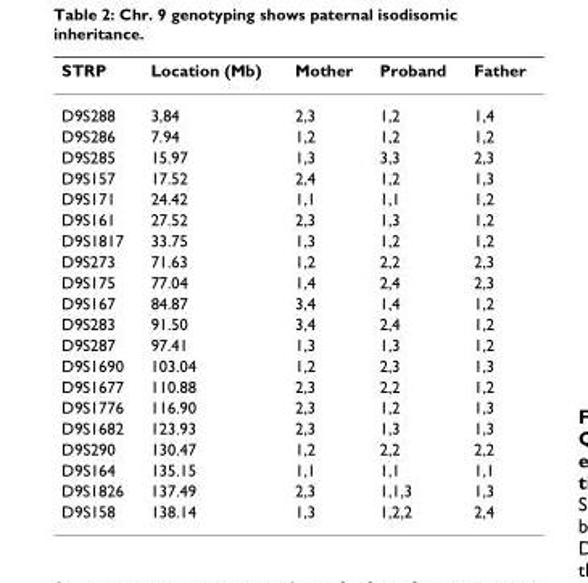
<table><thead><tr><td>STRP</td><td>Location (Mb)</td><td>Mother</td><td>Proband</td><td>Father</td></tr></thead><tbody><tr><td>D9S288</td><td>3,84</td><td>2,3</td><td>1,2</td><td>1,4</td></tr><tr><td>D9S286</td><td>7.94</td><td>1,2</td><td>1,2</td><td>1,2</td></tr><tr><td>D9S285</td><td>15.97</td><td>1,3</td><td>3,3</td><td>2,3</td></tr><tr><td>D9S157</td><td>17.52</td><td>2,4</td><td>1,2</td><td>1,3</td></tr><tr><td>D9S171</td><td>24.42</td><td>1,1</td><td>1,1</td><td>1,2</td></tr><tr><td>D9S161</td><td>27.52</td><td>2,3</td><td>1,3</td><td>1,2</td></tr><tr><td>D9S1817</td><td>33.75</td><td>1,3</td><td>1,2</td><td>1,2</td></tr><tr><td>D9S273</td><td>71.63</td><td>1,2</td><td>2,2</td><td>2,3</td></tr><tr><td>D9S175</td><td>77.04</td><td>1,4</td><td>2,4</td><td>2,3</td></tr><tr><td>D9S167</td><td>84.87</td><td>3,4</td><td>1,4</td><td>1,2</td></tr><tr><td>D9S283</td><td>91.50</td><td>3,4</td><td>2,4</td><td>1,2</td></tr><tr><td>D9S287</td><td>97.41</td><td>1,3</td><td>1,3</td><td>1,2</td></tr><tr><td>D9S1690</td><td>103.04</td><td>1,2</td><td>2,3</td><td>1,3</td></tr><tr><td>D9S1677</td><td>110.88</td><td>2,3</td><td>2,2</td><td>1,2</td></tr><tr><td>D9S1776</td><td>116.90</td><td>2,3</td><td>1,2</td><td>1,3</td></tr><tr><td>D9S1682</td><td>123.93</td><td>2,3</td><td>1,3</td><td>1,3</td></tr><tr><td>D9S290</td><td>130.47</td><td>1,2</td><td>2,2</td><td>2,2</td></tr><tr><td>D9S164</td><td>135.15</td><td>1,1</td><td>1,1</td><td>1,1</td></tr><tr><td>D9S1826</td><td>137.49</td><td>2,3</td><td>1,1,3</td><td>1,3</td></tr><tr><td>D9S158</td><td>138.14</td><td>1,3</td><td>1,2,2</td><td>2,4</td></tr></tbody></table>